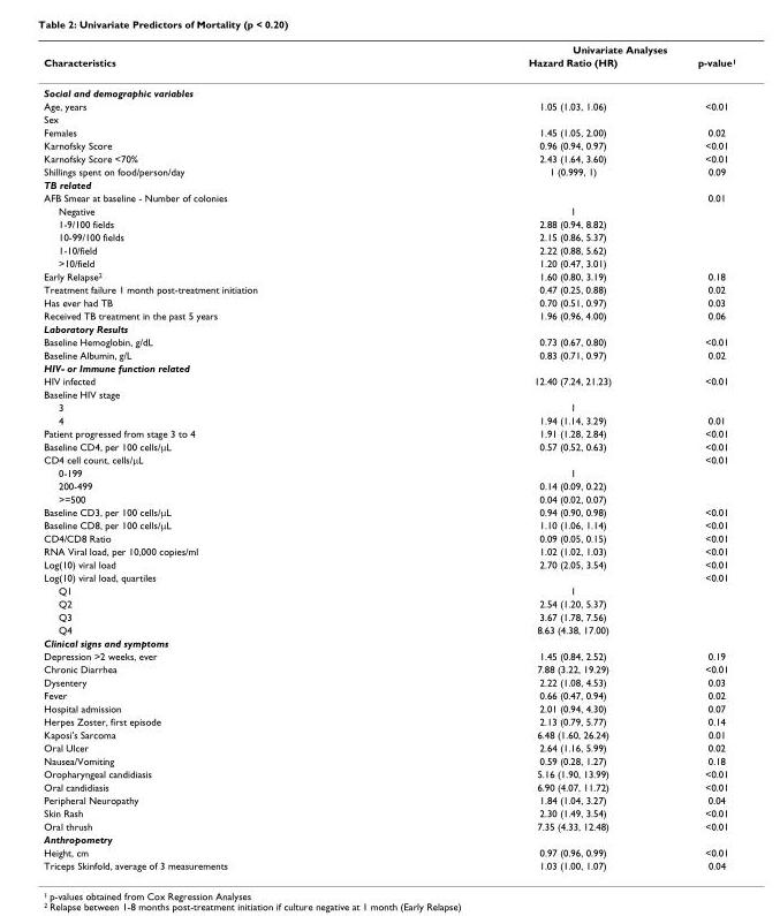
<table><thead><tr><td rowspan="2">Characteristics</td><td colspan="2">Univariate Analyses</td></tr><tr><td>Hazard Ratio (HR)</td><td>p-value<sup>1</sup></td></tr></thead><tbody><tr><td colspan="3">Social and demographic variables</td></tr><tr><td>Age, years</td><td>1.05 (1.03, 1.06)</td><td>&lt;0.01</td></tr><tr><td colspan="3">Sex</td></tr><tr><td>Females</td><td>1.45 (1.05, 2.00)</td><td>0.02</td></tr><tr><td>Karnofsky Score</td><td>0.96 (0.94, 0.97)</td><td>&lt;0.01</td></tr><tr><td>Karnofsky Score &lt;70%</td><td>2.43 (1.64, 3.60)</td><td>&lt;0.01</td></tr><tr><td>Shillings spent on food/person/day</td><td>1 (0.999, 1)</td><td>0.09</td></tr><tr><td colspan="3">TB related</td></tr><tr><td>AFB Smear at baseline - Number of colonies</td><td></td><td>0.01</td></tr><tr><td>Negative</td><td>1</td><td></td></tr><tr><td>1-9/100 fields</td><td>2.88 (0.94, 8.82)</td><td></td></tr><tr><td>10-99/100 fields</td><td>2.15 (0.86, 5.37)</td><td></td></tr><tr><td>1-10/field</td><td>2.22 (0.88, 5.62)</td><td></td></tr><tr><td>&gt;10/field</td><td>1.20 (0.47, 3.01)</td><td></td></tr><tr><td>Early Relapse<sup>2</sup></td><td>1.60 (0.80, 3.19)</td><td>0.18</td></tr><tr><td>Treatment failure 1 month post-treatment initiation</td><td>0.47 (0.25, 0.88)</td><td>0.02</td></tr><tr><td>Has ever had TB</td><td>0.70 (0.51, 0.97)</td><td>0.03</td></tr><tr><td>Received TB treatment in the past 5 years</td><td>1.96 (0.96, 4.00)</td><td>0.06</td></tr><tr><td colspan="3">Laboratory Results</td></tr><tr><td>Baseline Hemoglobin, g/dL</td><td>0.73 (0.67, 0.80)</td><td>&lt;0.01</td></tr><tr><td>Baseline Albumin, g/L</td><td>0.83 (0.71, 0.97)</td><td>0.02</td></tr><tr><td colspan="3">HIV- or Immune function related</td></tr><tr><td>HIV infected</td><td>12.40 (7.24, 21.23)</td><td>&lt;0.01</td></tr><tr><td colspan="3">Baseline HIV stage</td></tr><tr><td>3</td><td>1</td><td></td></tr><tr><td>4</td><td>1.94 (1.14, 3.29)</td><td>0.01</td></tr><tr><td>Patient progressed from stage 3 to 4</td><td>1.91 (1.28, 2.84)</td><td>&lt;0.01</td></tr><tr><td>Baseline CD4, per 100 cells/μL</td><td>0.57 (0.52, 0.63)</td><td>&lt;0.01</td></tr><tr><td>CD4 cell count, cells/μL</td><td></td><td>&lt;0.01</td></tr><tr><td>0-199</td><td>1</td><td></td></tr><tr><td>200-499</td><td>0.14 (0.09, 0.22)</td><td></td></tr><tr><td>&gt;=500</td><td>0.04 (0.02, 0.07)</td><td></td></tr><tr><td>Baseline CD3, per 100 cells/μL</td><td>0.94 (0.90, 0.98)</td><td>&lt;0.01</td></tr><tr><td>Baseline CD8, per 100 cells/μL</td><td>1.10 (1.06, 1.14)</td><td>&lt;0.01</td></tr><tr><td>CD4/CD8 Ratio</td><td>0.09 (0.05, 0.15)</td><td>&lt;0.01</td></tr><tr><td>RNA Viral load, per 10,000 copies/ml</td><td>1.02 (1.02, 1.03)</td><td>&lt;0.01</td></tr><tr><td>Log(10) viral load</td><td>2.70 (2.05, 3.54)</td><td>&lt;0.01</td></tr><tr><td>Log(10) viral load, quartiles</td><td></td><td>&lt;0.01</td></tr><tr><td>Q1</td><td>1</td><td></td></tr><tr><td>Q2</td><td>2.54 (1.20, 5.37)</td><td></td></tr><tr><td>Q3</td><td>3.67 (1.78, 7.56)</td><td></td></tr><tr><td>Q4</td><td>8.63 (4.38, 17.00)</td><td></td></tr><tr><td colspan="3">Clinical signs and symptoms</td></tr><tr><td>Depression &gt;2 weeks, ever</td><td>1.45 (0.84, 2.52)</td><td>0.19</td></tr><tr><td>Chronic Diarrhea</td><td>7.88 (3.22, 19.29)</td><td>&lt;0.01</td></tr><tr><td>Dysentery</td><td>2.22 (1.08, 4.53)</td><td>0.03</td></tr><tr><td>Fever</td><td>0.66 (0.47, 0.94)</td><td>0.02</td></tr><tr><td>Hospital admission</td><td>2.01 (0.94, 4.30)</td><td>0.07</td></tr><tr><td>Herpes Zoster, first episode</td><td>2.13 (0.79, 5.77)</td><td>0.14</td></tr><tr><td>Kaposi&#x27;s Sarcoma</td><td>6.48 (1.60, 26.24)</td><td>0.01</td></tr><tr><td>Oral Ulcer</td><td>2.64 (1.16, 5.99)</td><td>0.02</td></tr><tr><td>Nausea/Vomiting</td><td>0.59 (0.28, 1.27)</td><td>0.18</td></tr><tr><td>Oropharyngeal candidiasis</td><td>5.16 (1.90, 13.99)</td><td>&lt;0.01</td></tr><tr><td>Oral candidiasis</td><td>6.90 (4.07, 11.72)</td><td>&lt;0.01</td></tr><tr><td>Peripheral Neuropathy</td><td>1.84 (1.04, 3.27)</td><td>0.04</td></tr><tr><td>Skin Rash</td><td>2.30 (1.49, 3.54)</td><td>&lt;0.01</td></tr><tr><td>Oral thrush</td><td>7.35 (4.33, 12.48)</td><td>&lt;0.01</td></tr><tr><td colspan="3">Anthropometry</td></tr><tr><td>Height, cm</td><td>0.97 (0.96, 0.99)</td><td>&lt;0.01</td></tr><tr><td>Triceps Skinfold, average of 3 measurements</td><td>1.03 (1.00, 1.07)</td><td>0.04</td></tr></tbody></table>